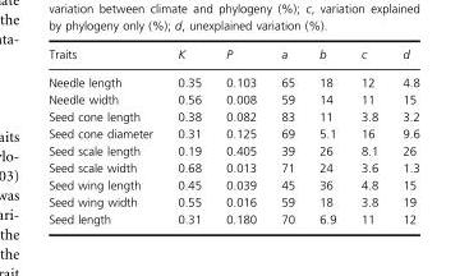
<table><thead><tr><td>Traits</td><td>K</td><td>P</td><td>a</td><td>b</td><td>c</td><td>d</td></tr></thead><tbody><tr><td>Needle length</td><td>0.35</td><td>0.103</td><td>65</td><td>18</td><td>12</td><td>4.8</td></tr><tr><td>Needle width</td><td>0.56</td><td>0.008</td><td>59</td><td>14</td><td>11</td><td>15</td></tr><tr><td>Seed cone length</td><td>0.38</td><td>0.082</td><td>83</td><td>11</td><td>3.8</td><td>3.2</td></tr><tr><td>Seed cone diameter</td><td>0.31</td><td>0.125</td><td>69</td><td>5.1</td><td>16</td><td>9.6</td></tr><tr><td>Seed scale length</td><td>0.19</td><td>0.405</td><td>39</td><td>26</td><td>8.1</td><td>26</td></tr><tr><td>Seed scale width</td><td>0.68</td><td>0.013</td><td>71</td><td>24</td><td>3.6</td><td>1.3</td></tr><tr><td>Seed wing length</td><td>0.45</td><td>0.039</td><td>45</td><td>36</td><td>4.8</td><td>15</td></tr><tr><td>Seed wing width</td><td>0.55</td><td>0.016</td><td>59</td><td>18</td><td>3.8</td><td>19</td></tr><tr><td>Seed length</td><td>0.31</td><td>0.180</td><td>70</td><td>6.9</td><td>11</td><td>12</td></tr></tbody></table>